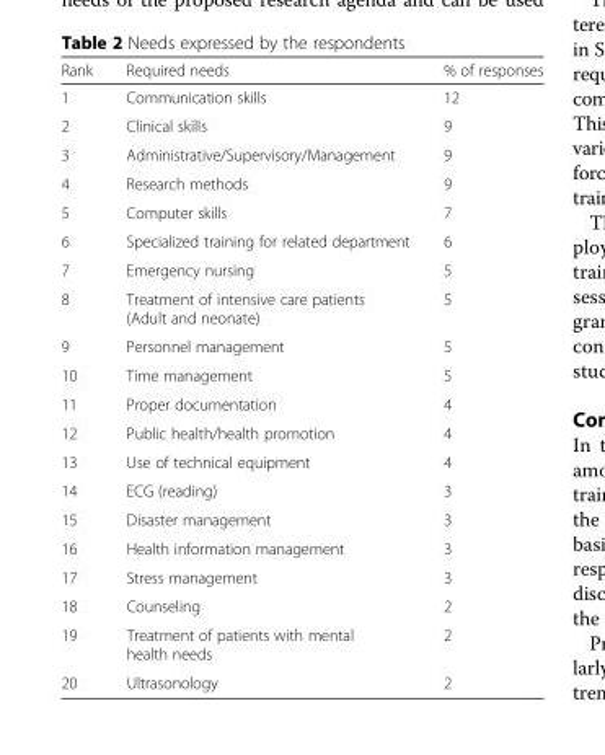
<table><thead><tr><td>Rank</td><td>Required needs</td><td>% of responses</td></tr></thead><tbody><tr><td>1</td><td>Communication skills</td><td>12</td></tr><tr><td>2</td><td>Clinical skills</td><td>9</td></tr><tr><td>3</td><td>Administrative/Supervisory/Management</td><td>9</td></tr><tr><td>4</td><td>Research methods</td><td>9</td></tr><tr><td>5</td><td>Computer skills</td><td>7</td></tr><tr><td>6</td><td>Specialized training for related department</td><td>6</td></tr><tr><td>7</td><td>Emergency nursing</td><td>5</td></tr><tr><td>8</td><td>Treatment of intensive care patients (Adult and neonate)</td><td>5</td></tr><tr><td>9</td><td>Personnel management</td><td>5</td></tr><tr><td>10</td><td>Time management</td><td>5</td></tr><tr><td>11</td><td>Proper documentation</td><td>4</td></tr><tr><td>12</td><td>Public health/health promotion</td><td>4</td></tr><tr><td>13</td><td>Use of technical equipment</td><td>4</td></tr><tr><td>14</td><td>ECG (reading)</td><td>3</td></tr><tr><td>15</td><td>Disaster management</td><td>3</td></tr><tr><td>16</td><td>Health information management</td><td>3</td></tr><tr><td>17</td><td>Stress management</td><td>3</td></tr><tr><td>18</td><td>Counseling</td><td>2</td></tr><tr><td>19</td><td>Treatment of patients with mental health needs</td><td>2</td></tr><tr><td>20</td><td>Ultrasonology</td><td>2</td></tr></tbody></table>